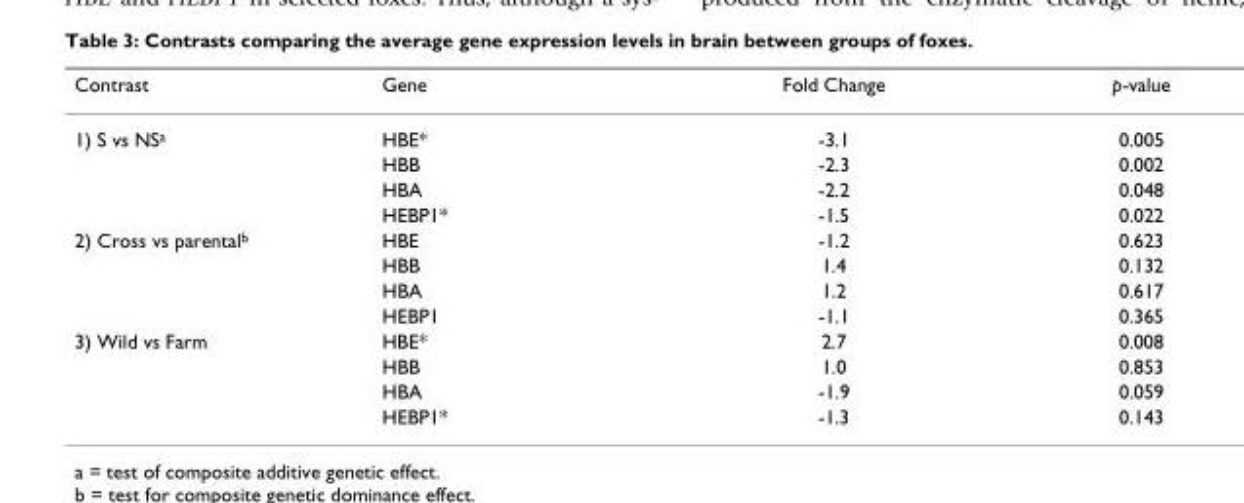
<table><thead><tr><td>Contrast</td><td>Gene</td><td>Fold Change</td><td>p-value</td></tr></thead><tbody><tr><td rowspan="4">1) S vs NS<sup>a</sup></td><td>HBE*</td><td>-3.1</td><td>0.005</td></tr><tr><td>HBB</td><td>-2.3</td><td>0.002</td></tr><tr><td>HBA</td><td>-2.2</td><td>0.048</td></tr><tr><td>HEBP1*</td><td>-1.5</td><td>0.022</td></tr><tr><td rowspan="4">2) Cross vs parental<sup>b</sup></td><td>HBE</td><td>-1.2</td><td>0.623</td></tr><tr><td>HBB</td><td>1.4</td><td>0.132</td></tr><tr><td>HBA</td><td>1.2</td><td>0.617</td></tr><tr><td>HEBP1</td><td>-1.1</td><td>0.365</td></tr><tr><td rowspan="4">3) Wild vs Farm</td><td>HBE*</td><td>2.7</td><td>0.008</td></tr><tr><td>HBB</td><td>1.0</td><td>0.853</td></tr><tr><td>HBA</td><td>-1.9</td><td>0.059</td></tr><tr><td>HEBP1*</td><td>-1.3</td><td>0.143</td></tr></tbody></table>